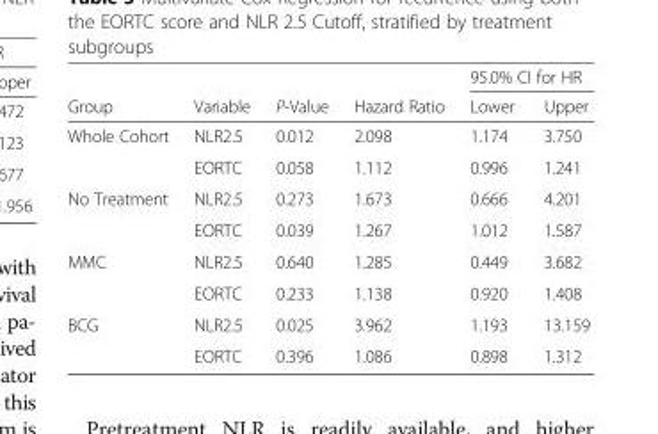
<table><thead><tr><td rowspan="2">Group</td><td rowspan="2">Variable</td><td rowspan="2">P-Value</td><td rowspan="2">Hazard Ratio</td><td colspan="2">95.0% CI for HR</td></tr><tr><td>Lower</td><td>Upper</td></tr></thead><tbody><tr><td rowspan="2">Whole Cohort</td><td>NLR2.5</td><td>0.012</td><td>2.098</td><td>1.174</td><td>3.750</td></tr><tr><td>EORTC</td><td>0.058</td><td>1.112</td><td>0.996</td><td>1.241</td></tr><tr><td rowspan="2">No Treatment</td><td>NLR2.5</td><td>0.273</td><td>1.673</td><td>0.666</td><td>4.201</td></tr><tr><td>EORTC</td><td>0.039</td><td>1.267</td><td>1.012</td><td>1.587</td></tr><tr><td rowspan="2">MMC</td><td>NLR2.5</td><td>0.640</td><td>1.285</td><td>0.449</td><td>3.682</td></tr><tr><td>EORTC</td><td>0.233</td><td>1.138</td><td>0.920</td><td>1.408</td></tr><tr><td rowspan="2">BCG</td><td>NLR2.5</td><td>0.025</td><td>3.962</td><td>1.193</td><td>13.159</td></tr><tr><td>EORTC</td><td>0.396</td><td>1.086</td><td>0.898</td><td>1.312</td></tr></tbody></table>